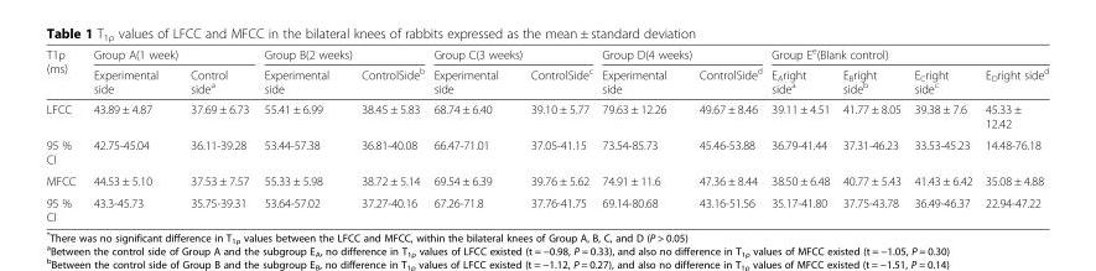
<table><thead><tr><td rowspan="2">T1ρ (ms)</td><td colspan="2">Group A(1 week)</td><td colspan="2">Group B(2 weeks)</td><td colspan="2">Group C(3 weeks)</td><td colspan="2">Group D(4 weeks)</td><td colspan="4">Group E<sup>e</sup>(Blank control)</td></tr><tr><td>Experimental side</td><td>Control side<sup>a</sup></td><td>Experimental side</td><td>ControlSide<sup>b</sup></td><td>Experimental side</td><td>ControlSide<sup>c</sup></td><td>Experimental side</td><td>ControlSide<sup>d</sup></td><td>E<sub>A</sub>right side<sup>a</sup></td><td>E<sub>B</sub>right side<sup>b</sup></td><td>E<sub>C</sub>right side<sup>c</sup></td><td>E<sub>D</sub>right side<sup>d</sup></td></tr></thead><tbody><tr><td>LFCC</td><td>43.89 ± 4.87</td><td>37.69 ± 6.73</td><td>55.41 ± 6.99</td><td>38.45 ± 5.83</td><td>68.74 ± 6.40</td><td>39.10 ± 5.77</td><td>79.63 ± 12.26</td><td>49.67 ± 8.46</td><td>39.11 ± 4.51</td><td>41.77 ± 8.05</td><td>39.38 ± 7.6</td><td>45.33 ± 12.42</td></tr><tr><td>95 % CI</td><td>42.75-45.04</td><td>36.11-39.28</td><td>53.44-57.38</td><td>36.81-40.08</td><td>66.47-71.01</td><td>37.05-41.15</td><td>73.54-85.73</td><td>45.46-53.88</td><td>36.79-41.44</td><td>37.31-46.23</td><td>33.53-45.23</td><td>14.48-76.18</td></tr><tr><td>MFCC</td><td>44.53 ± 5.10</td><td>37.53 ± 7.57</td><td>55.33 ± 5.98</td><td>38.72 ± 5.14</td><td>69.54 ± 6.39</td><td>39.76 ± 5.62</td><td>74.91 ± 11.6</td><td>47.36 ± 8.44</td><td>38.50 ± 6.48</td><td>40.77 ± 5.43</td><td>41.43 ± 6.42</td><td>35.08 ± 4.88</td></tr><tr><td>95 % CI</td><td>43.3-45.73</td><td>35.75-39.31</td><td>53.64-57.02</td><td>37.27-40.16</td><td>67.26-71.8</td><td>37.76-41.75</td><td>69.14-80.68</td><td>43.16-51.56</td><td>35.17-41.80</td><td>37.75-43.78</td><td>36.49-46.37</td><td>22.94-47.22</td></tr></tbody></table>